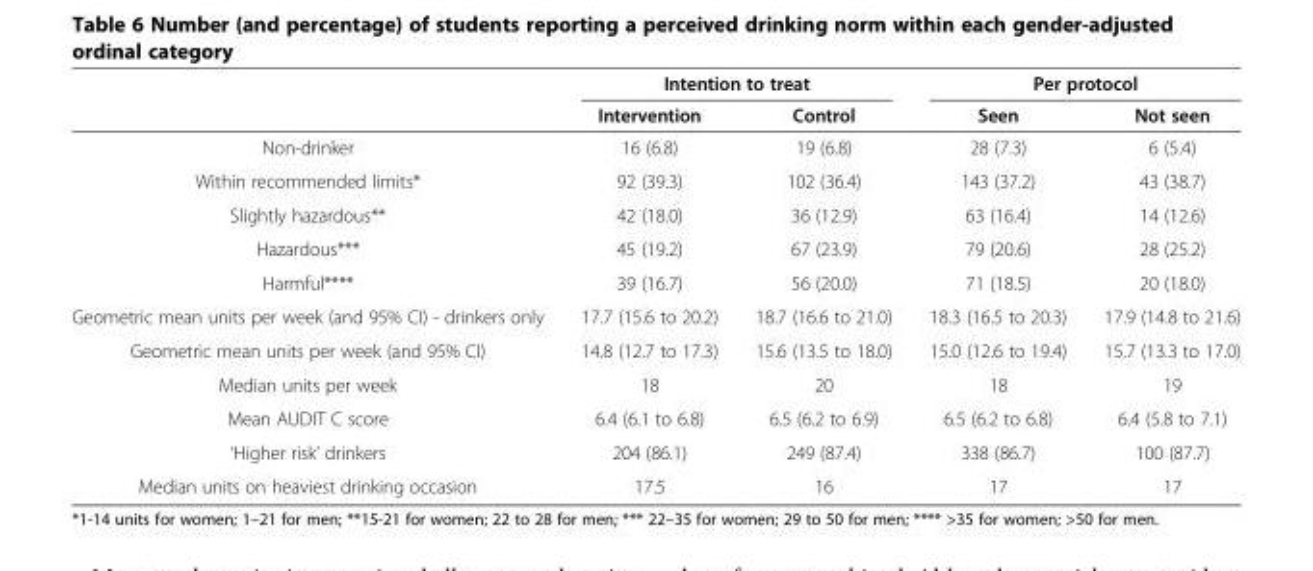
<table><thead><tr><td rowspan="2"></td><td colspan="2">Intention to treat</td><td colspan="2">Per protocol</td></tr><tr><td>Intervention</td><td>Control</td><td>Seen</td><td>Not seen</td></tr></thead><tbody><tr><td>Non-drinker</td><td>16 (6.8)</td><td>19 (6.8)</td><td>28 (7.3)</td><td>6 (5.4)</td></tr><tr><td>Within recommended limits*</td><td>92 (39.3)</td><td>102 (36.4)</td><td>143 (37.2)</td><td>43 (38.7)</td></tr><tr><td>Slightly hazardous**</td><td>42 (18.0)</td><td>36 (12.9)</td><td>63 (16.4)</td><td>14 (12.6)</td></tr><tr><td>Hazardous***</td><td>45 (19.2)</td><td>67 (23.9)</td><td>79 (20.6)</td><td>28 (25.2)</td></tr><tr><td>Harmful****</td><td>39 (16.7)</td><td>56 (20.0)</td><td>71 (18.5)</td><td>20 (18.0)</td></tr><tr><td>Geometric mean units per week (and 95% CI) - drinkers only</td><td>17.7 (15.6 to 20.2)</td><td>18.7 (16.6 to 21.0)</td><td>18.3 (16.5 to 20.3)</td><td>17.9 (14.8 to 21.6)</td></tr><tr><td>Geometric mean units per week (and 95% CI)</td><td>14.8 (12.7 to 17.3)</td><td>15.6 (13.5 to 18.0)</td><td>15.0 (12.6 to 19.4)</td><td>15.7 (13.3 to 17.0)</td></tr><tr><td>Median units per week</td><td>18</td><td>20</td><td>18</td><td>19</td></tr><tr><td>Mean AUDIT C score</td><td>6.4 (6.1 to 6.8)</td><td>6.5 (6.2 to 6.9)</td><td>6.5 (6.2 to 6.8)</td><td>6.4 (5.8 to 7.1)</td></tr><tr><td>‘Higher risk’ drinkers</td><td>204 (86.1)</td><td>249 (87.4)</td><td>338 (86.7)</td><td>100 (87.7)</td></tr><tr><td>Median units on heaviest drinking occasion</td><td>17.5</td><td>16</td><td>17</td><td>17</td></tr></tbody></table>